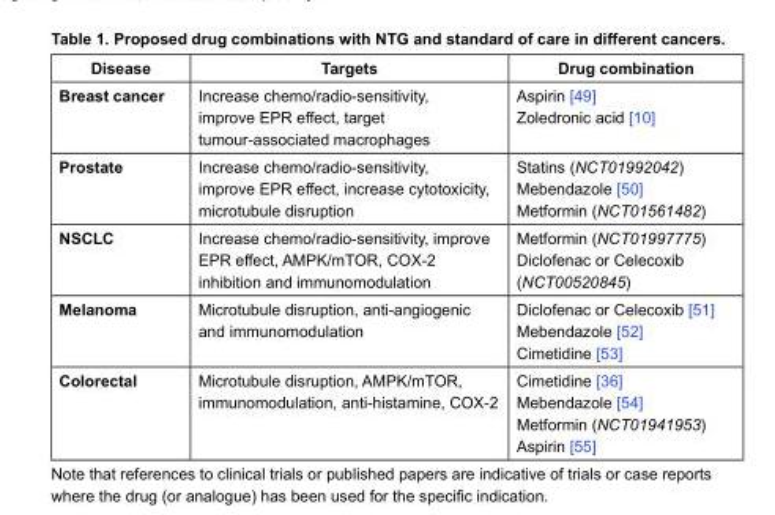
<table><thead><tr><td>Disease</td><td>Targets</td><td>Drug combination</td></tr></thead><tbody><tr><td>Breast cancer</td><td>Increase chemo/radio-sensitivity, improve EPR effect, target tumour-associated macrophages</td><td>Aspirin [49] Zoledronic acid [10]</td></tr><tr><td>Prostate</td><td>Increase chemo/radio-sensitivity, improve EPR effect, increase cytotoxicity, microtubule disruption</td><td>Statins (NCT01992042) Mebendazole [50] Metformin (NCT01561482)</td></tr><tr><td>NSCLC</td><td>Increase chemo/radio-sensitivity, improve EPR effect, AMPK/mTOR, COX-2 inhibition and immunomodulation</td><td>Metformin (NCT01997775) Diclofenac or Celecoxib (NCT00520845)</td></tr><tr><td>Melanoma</td><td>Microtubule disruption, anti-angiogenic and immunomodulation</td><td>Diclofenac or Celecoxib [51] Mebendazole [52] Cimetidine [53]</td></tr><tr><td>Colorectal</td><td>Microtubule disruption, AMPK/mTOR, immunomodulation, anti-histamine, COX-2</td><td>Cimetidine [36] Mebendazole [54] Metformin (NCT01941953) Aspirin [55]</td></tr></tbody></table>